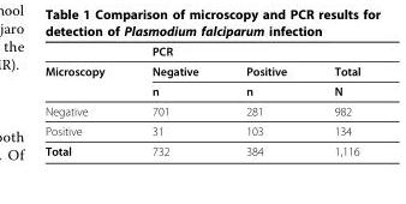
<table><thead><tr><td rowspan="2">Microscopy</td><td colspan="2">PCR</td><td rowspan="2">Total</td></tr><tr><td>Negative</td><td>Positive</td></tr></thead><tbody><tr><td></td><td>n</td><td>n</td><td>N</td></tr><tr><td>Negative</td><td>701</td><td>281</td><td>982</td></tr><tr><td>Positive</td><td>31</td><td>103</td><td>134</td></tr><tr><td>Total</td><td>732</td><td>384</td><td>1,116</td></tr></tbody></table>